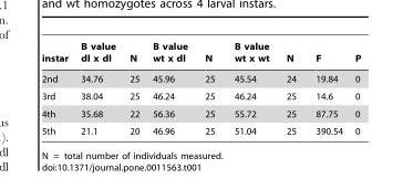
<table><thead><tr><td>instar</td><td>B value dl x dl</td><td>N</td><td>B value wt x dl</td><td>N</td><td>B value wt x wt</td><td>N</td><td>F</td><td>P</td></tr></thead><tbody><tr><td>2nd</td><td>34.76</td><td>25</td><td>45.96</td><td>25</td><td>45.54</td><td>24</td><td>19.84</td><td>0</td></tr><tr><td>3rd</td><td>38.04</td><td>25</td><td>46.24</td><td>25</td><td>46.24</td><td>25</td><td>14.6</td><td>0</td></tr><tr><td>4th</td><td>35.68</td><td>22</td><td>56.36</td><td>25</td><td>55.72</td><td>25</td><td>87.75</td><td>0</td></tr><tr><td>5th</td><td>21.1</td><td>20</td><td>46.96</td><td>25</td><td>51.04</td><td>25</td><td>390.54</td><td>0</td></tr></tbody></table>